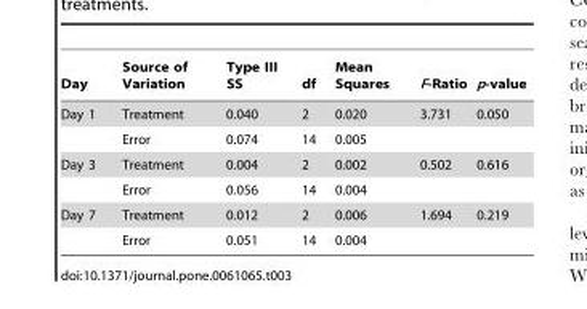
<table><thead><tr><td>Day</td><td>Source of Variation</td><td>Type III SS</td><td>df</td><td>Mean Squares</td><td>F-Ratio</td><td>p-value</td></tr></thead><tbody><tr><td rowspan="2">Day 1</td><td>Treatment</td><td>0.040</td><td>2</td><td>0.020</td><td>3.731</td><td>0.050</td></tr><tr><td>Error</td><td>0.074</td><td>14</td><td>0.005</td><td></td><td></td></tr><tr><td rowspan="2">Day 3</td><td>Treatment</td><td>0.004</td><td>2</td><td>0.002</td><td>0.502</td><td>0.616</td></tr><tr><td>Error</td><td>0.056</td><td>14</td><td>0.004</td><td></td><td></td></tr><tr><td rowspan="2">Day 7</td><td>Treatment</td><td>0.012</td><td>2</td><td>0.006</td><td>1.694</td><td>0.219</td></tr><tr><td>Error</td><td>0.051</td><td>14</td><td>0.004</td><td></td><td></td></tr></tbody></table>